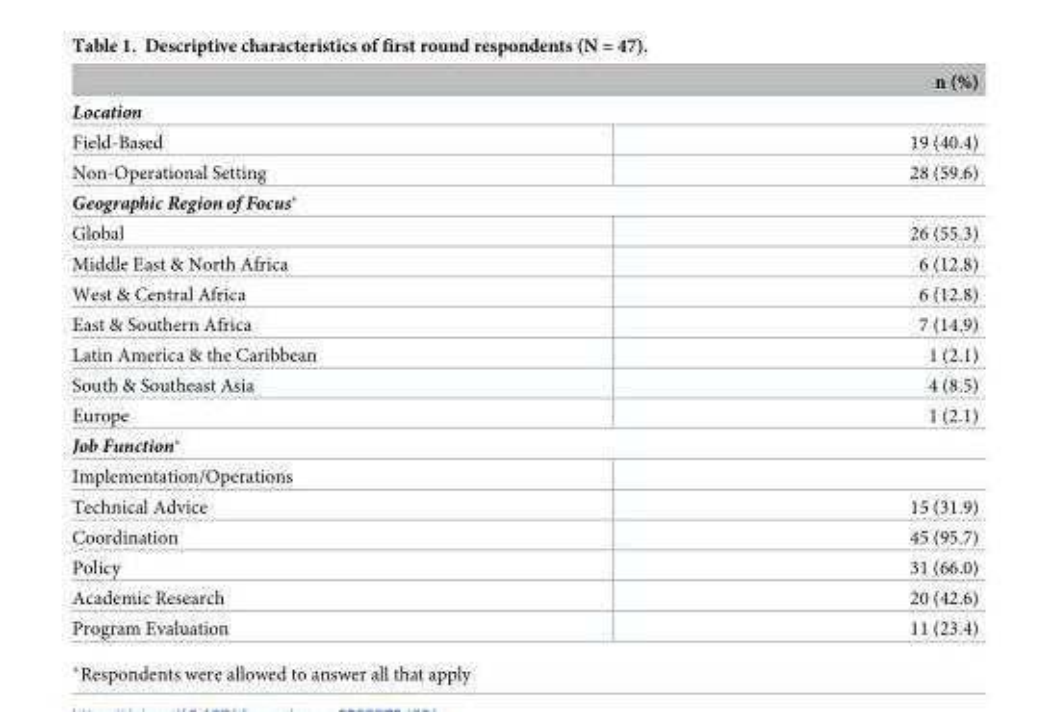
<table><thead><tr><td rowspan="2" colspan="2">n (%) Location</td></tr><tr></tr><tr><td>Field-Based</td><td>19 (40.4)</td></tr></thead><tbody><tr><td>Non-Operational Setting</td><td>28 (59.6)</td></tr><tr><td colspan="2">Geographic Region of Focus*</td></tr><tr><td>Global</td><td>26 (55.3)</td></tr><tr><td>Middle East &amp; North Africa</td><td>6 (12.8)</td></tr><tr><td>West &amp; Central Africa</td><td>6 (12.8)</td></tr><tr><td>East &amp; Southern Africa</td><td>7 (14.9)</td></tr><tr><td>Latin America &amp; the Caribbean</td><td>1 (2.1)</td></tr><tr><td>South &amp; Southeast Asia</td><td>4 (8.5)</td></tr><tr><td>Europe</td><td>1 (2.1)</td></tr><tr><td colspan="2">Job Function*</td></tr><tr><td colspan="2">Implementation/Operations</td></tr><tr><td>Technical Advice</td><td>15 (31.9)</td></tr><tr><td>Coordination</td><td>45 (95.7)</td></tr><tr><td>Policy</td><td>31 (66.0)</td></tr><tr><td>Academic Research</td><td>20 (42.6)</td></tr><tr><td>Program Evaluation</td><td>11 (23.4)</td></tr></tbody></table>